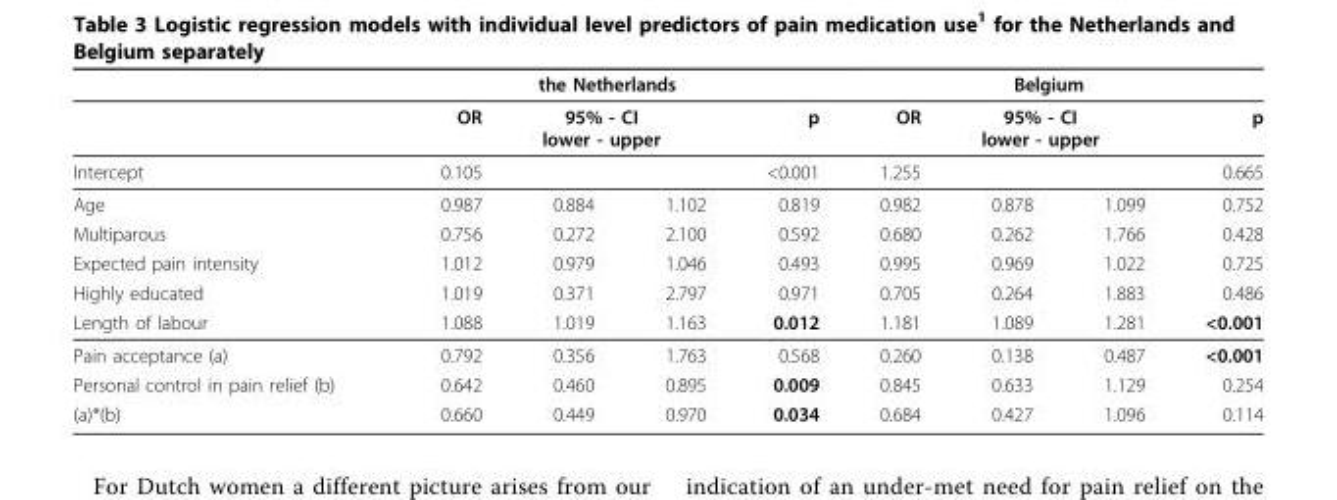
<table><thead><tr><td rowspan="3">Intercept</td><td colspan="4">the Netherlands</td><td colspan="4">Belgium</td></tr><tr><td rowspan="2">OR 0.105</td><td colspan="2">95% - CI lower - upper</td><td rowspan="2">p &lt;0.001</td><td rowspan="2">OR 1.255</td><td colspan="2">95% - CI lower - upper</td><td rowspan="2">p 0.665</td></tr><tr><td></td><td></td><td></td><td></td></tr></thead><tbody><tr><td>Age</td><td>0.987</td><td>0.884</td><td>1.102</td><td>0.819</td><td>0.982</td><td>0.878</td><td>1.099</td><td>0.752</td></tr><tr><td>Multiparous</td><td>0.756</td><td>0.272</td><td>2.100</td><td>0.592</td><td>0.680</td><td>0.262</td><td>1.766</td><td>0.428</td></tr><tr><td>Expected pain intensity</td><td>1.012</td><td>0.979</td><td>1.046</td><td>0.493</td><td>0.995</td><td>0.969</td><td>1.022</td><td>0.725</td></tr><tr><td>Highly educated</td><td>1.019</td><td>0.371</td><td>2.797</td><td>0.971</td><td>0.705</td><td>0.264</td><td>1.883</td><td>0.486</td></tr><tr><td>Length of labour</td><td>1.088</td><td>1.019</td><td>1.163</td><td>0.012</td><td>1.181</td><td>1.089</td><td>1.281</td><td>&lt;0.001</td></tr><tr><td>Pain acceptance (a)</td><td>0.792</td><td>0.356</td><td>1.763</td><td>0.568</td><td>0.260</td><td>0.138</td><td>0.487</td><td>&lt;0.001</td></tr><tr><td>Personal control in pain relief (b)</td><td>0.642</td><td>0.460</td><td>0.895</td><td>0.009</td><td>0.845</td><td>0.633</td><td>1.129</td><td>0.254</td></tr><tr><td>(a)*(b)</td><td>0.660</td><td>0.449</td><td>0.970</td><td>0.034</td><td>0.684</td><td>0.427</td><td>1.096</td><td>0.114</td></tr></tbody></table>